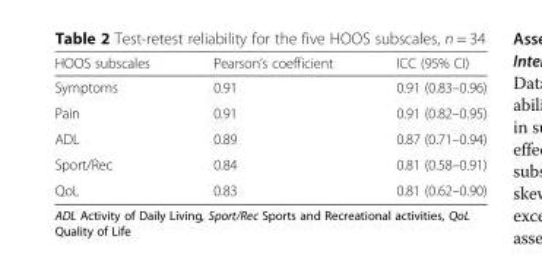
<table><thead><tr><td>HOOS subscales</td><td>Pearson’s coefficient</td><td>ICC (95% CI)</td></tr></thead><tbody><tr><td>Symptoms</td><td>0.91</td><td>0.91 (0.83–0.96)</td></tr><tr><td>Pain</td><td>0.91</td><td>0.91 (0.82–0.95)</td></tr><tr><td>ADL</td><td>0.89</td><td>0.87 (0.71–0.94)</td></tr><tr><td>Sport/Rec</td><td>0.84</td><td>0.81 (0.58–0.91)</td></tr><tr><td>QoL</td><td>0.83</td><td>0.81 (0.62–0.90)</td></tr></tbody></table>